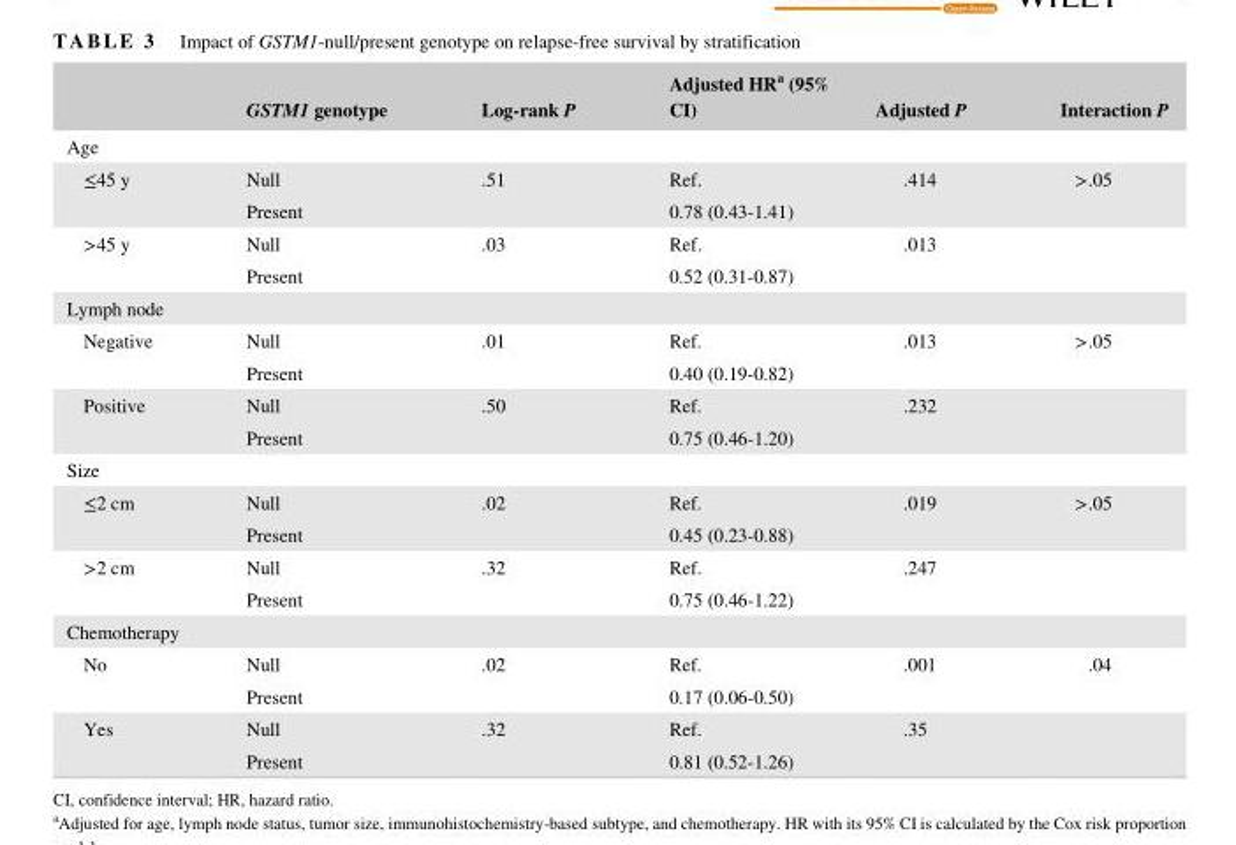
<table><thead><tr><td></td><td>GSTM1 genotype</td><td>Log- rank P</td><td>Adjusted HR<sup>a</sup> (95% CI)</td><td>Adjusted P</td><td>Interaction P</td></tr></thead><tbody><tr><td colspan="6">Age</td></tr><tr><td rowspan="2">≤45 y</td><td>Null</td><td>.51</td><td>Ref.</td><td>.414</td><td>&gt;.05</td></tr><tr><td>Present</td><td></td><td>0.78 (0.43- 1.41)</td><td></td><td></td></tr><tr><td rowspan="2">&gt;45 y</td><td>Null</td><td>.03</td><td>Ref.</td><td>.013</td><td></td></tr><tr><td>Present</td><td></td><td>0.52 (0.31- 0.87)</td><td></td><td></td></tr><tr><td colspan="6">Lymph node</td></tr><tr><td rowspan="2">Negative</td><td>Null</td><td>.01</td><td>Ref.</td><td>.013</td><td>&gt;.05</td></tr><tr><td>Present</td><td></td><td>0.40 (0.19- 0.82)</td><td></td><td></td></tr><tr><td rowspan="2">Positive</td><td>Null</td><td>.50</td><td>Ref.</td><td>.232</td><td></td></tr><tr><td>Present</td><td></td><td>0.75 (0.46- 1.20)</td><td></td><td></td></tr><tr><td colspan="6">Size</td></tr><tr><td rowspan="2">≤2 cm</td><td>Null</td><td>.02</td><td>Ref.</td><td>.019</td><td>&gt;.05</td></tr><tr><td>Present</td><td></td><td>0.45 (0.23- 0.88)</td><td></td><td></td></tr><tr><td rowspan="2">&gt;2 cm</td><td>Null</td><td>.32</td><td>Ref.</td><td>.247</td><td></td></tr><tr><td>Present</td><td></td><td>0.75 (0.46- 1.22)</td><td></td><td></td></tr><tr><td colspan="6">Chemotherapy</td></tr><tr><td rowspan="2">No</td><td>Null</td><td>.02</td><td>Ref.</td><td>.001</td><td>.04</td></tr><tr><td>Present</td><td></td><td>0.17 (0.06- 0.50)</td><td></td><td></td></tr><tr><td rowspan="2">Yes</td><td>Null</td><td>.32</td><td>Ref.</td><td>.35</td><td></td></tr><tr><td>Present</td><td></td><td>0.81 (0.52- 1.26)</td><td></td><td></td></tr></tbody></table>